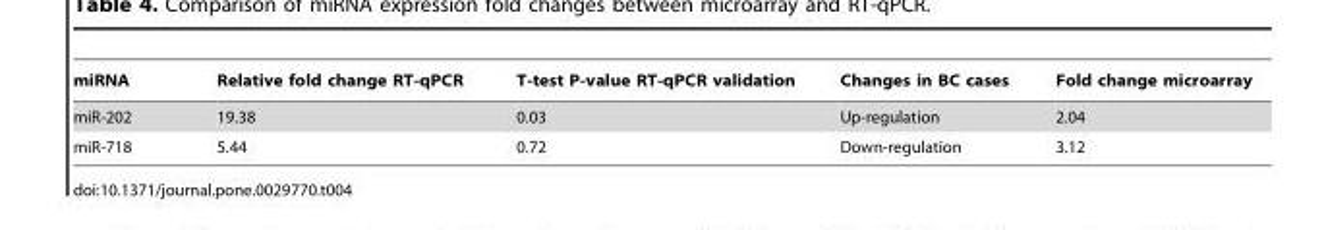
<table><thead><tr><td>miRNA</td><td>Relative fold change RT-qPCR</td><td>T-test P-value RT-qPCR validation</td><td>Changes in BC cases</td><td>Fold change microarray</td></tr></thead><tbody><tr><td>miR-202</td><td>19.38</td><td>0.03</td><td>Up-regulation</td><td>2.04</td></tr><tr><td>miR-718</td><td>5.44</td><td>0.72</td><td>Down-regulation</td><td>3.12</td></tr></tbody></table>